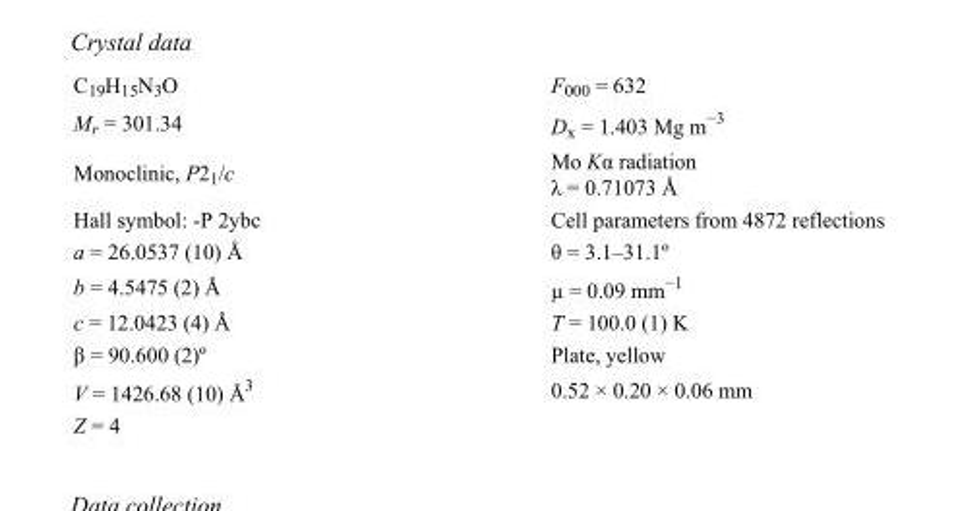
<table><tbody><tr><td>C<sub>19</sub>H<sub>15</sub>N<sub>3</sub>O</td><td>F<sub>000</sub> = 632</td></tr><tr><td>M<sub>r</sub> = 301.34</td><td>D<sub>x</sub> = 1.403 Mg m<sup>−3</sup></td></tr><tr><td>Monoclinic, P2<sub>1</sub>/c</td><td>Mo Kα radiation λ = 0.71073 Å</td></tr><tr><td>Hall symbol: -P 2ybc</td><td>Cell parameters from 4872 reflections</td></tr><tr><td>a = 26.0537 (10) Å</td><td>θ = 3.1–31.1º</td></tr><tr><td>b = 4.5475 (2) Å</td><td>µ = 0.09 mm<sup>−1</sup></td></tr><tr><td>c = 12.0423 (4) Å</td><td>T = 100.0 (1) K</td></tr><tr><td>β = 90.600 (2)º</td><td>Plate, yellow</td></tr><tr><td>V = 1426.68 (10) Å<sup>3</sup></td><td>0.52 × 0.20 × 0.06 mm</td></tr><tr><td>Z = 4</td><td></td></tr></tbody></table>